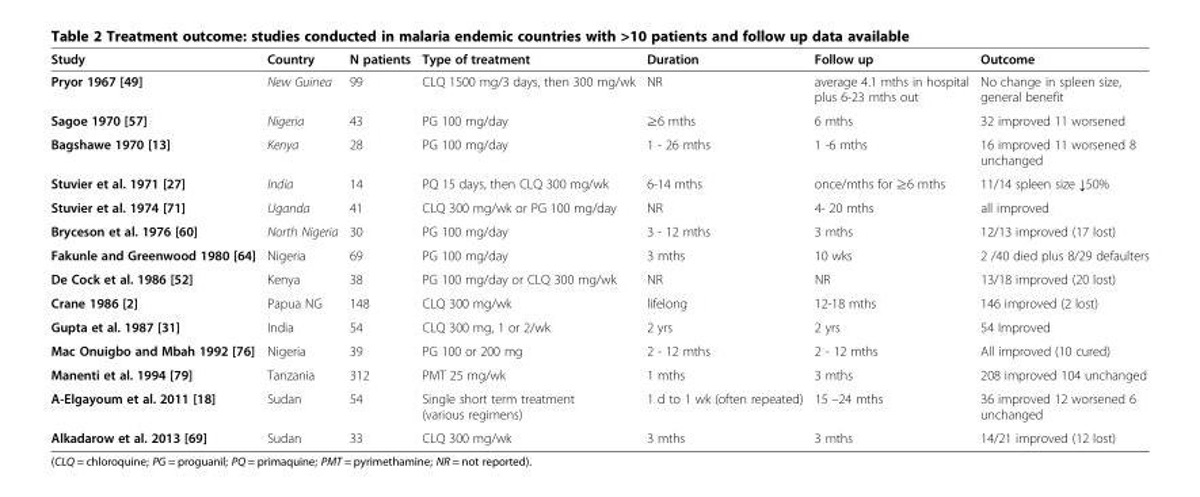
<table><thead><tr><td>Study</td><td>Country</td><td>N patients</td><td>Type of treatment</td><td>Duration</td><td>Follow up</td><td>Outcome</td></tr></thead><tbody><tr><td>Pryor 1967 [49]</td><td>New Guinea</td><td>99</td><td>CLQ 1500 mg/3 days, then 300 mg/wk</td><td>NR</td><td>average 4.1 mths in hospital plus 6-23 mths out</td><td>No change in spleen size, general benefit</td></tr><tr><td>Sagoe 1970 [57]</td><td>Nigeria</td><td>43</td><td>PG 100 mg/day</td><td>≥6 mths</td><td>6 mths</td><td>32 improved 11 worsened</td></tr><tr><td>Bagshawe 1970 [13]</td><td>Kenya</td><td>28</td><td>PG 100 mg/day</td><td>1 - 26 mths</td><td>1 -6 mths</td><td>16 improved 11 worsened 8 unchanged</td></tr><tr><td>Stuvier et al. 1971 [27]</td><td>India</td><td>14</td><td>PQ 15 days, then CLQ 300 mg/wk</td><td>6-14 mths</td><td>once/mths for ≥6 mths</td><td>11/14 spleen size ↓50%</td></tr><tr><td>Stuvier et al. 1974 [71]</td><td>Uganda</td><td>41</td><td>CLQ 300 mg/wk or PG 100 mg/day</td><td>NR</td><td>4- 20 mths</td><td>all improved</td></tr><tr><td>Bryceson et al. 1976 [60]</td><td>North Nigeria</td><td>30</td><td>PG 100 mg/day</td><td>3 - 12 mths</td><td>3 mths</td><td>12/13 improved (17 lost)</td></tr><tr><td>Fakunle and Greenwood 1980 [64]</td><td>Nigeria</td><td>69</td><td>PG 100 mg/day</td><td>3 mths</td><td>10 wks</td><td>2 /40 died plus 8/29 defaulters</td></tr><tr><td>De Cock et al. 1986 [52]</td><td>Kenya</td><td>38</td><td>PG 100 mg/day or CLQ 300 mg/wk</td><td>NR</td><td>NR</td><td>13/18 improved (20 lost)</td></tr><tr><td>Crane 1986 [2]</td><td>Papua NG</td><td>148</td><td>CLQ 300 mg/wk</td><td>lifelong</td><td>12-18 mths</td><td>146 improved (2 lost)</td></tr><tr><td>Gupta et al. 1987 [31]</td><td>India</td><td>54</td><td>CLQ 300 mg, 1 or 2/wk</td><td>2 yrs</td><td>2 yrs</td><td>54 Improved</td></tr><tr><td>Mac Onuigbo and Mbah 1992 [76]</td><td>Nigeria</td><td>39</td><td>PG 100 or 200 mg</td><td>2 - 12 mths</td><td>2 - 12 mths</td><td>All improved (10 cured)</td></tr><tr><td>Manenti et al. 1994 [79]</td><td>Tanzania</td><td>312</td><td>PMT 25 mg/wk</td><td>1 mths</td><td>3 mths</td><td>208 improved 104 unchanged</td></tr><tr><td>A-Elgayoum et al. 2011 [18]</td><td>Sudan</td><td>54</td><td>Single short term treatment (various regimens)</td><td>1 d to 1 wk (often repeated)</td><td>15 –24 mths</td><td>36 improved 12 worsened 6 unchanged</td></tr><tr><td>Alkadarow et al. 2013 [69]</td><td>Sudan</td><td>33</td><td>CLQ 300 mg/wk</td><td>3 mths</td><td>3 mths</td><td>14/21 improved (12 lost)</td></tr></tbody></table>